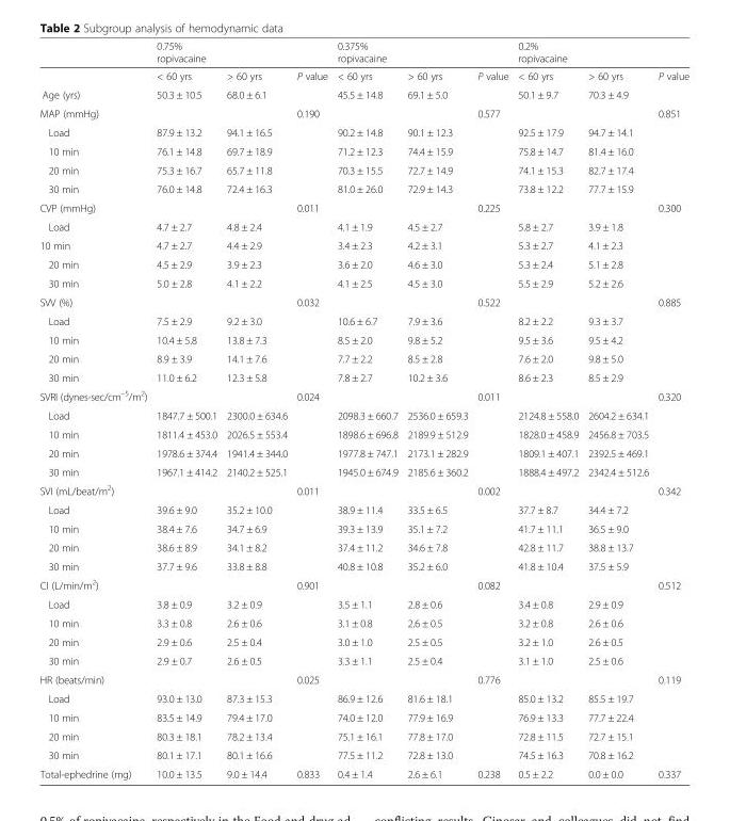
<table><thead><tr><td></td><td>0.75% ropivacaine</td><td></td><td></td><td>0.375% ropivacaine</td><td></td><td></td><td>0.2% ropivacaine</td><td></td><td></td></tr></thead><tbody><tr><td></td><td>&lt; 60 yrs</td><td>&gt; 60 yrs</td><td>P value</td><td>&lt; 60 yrs</td><td>&gt; 60 yrs</td><td>P value</td><td>&lt; 60 yrs</td><td>&gt; 60 yrs</td><td>P value</td></tr><tr><td>Age (yrs)</td><td>50.3 ± 10.5</td><td>68.0 ± 6.1</td><td></td><td>45.5 ± 14.8</td><td>69.1 ± 5.0</td><td></td><td>50.1 ± 9.7</td><td>70.3 ± 4.9</td><td></td></tr><tr><td>MAP (mmHg)</td><td></td><td></td><td>0.190</td><td></td><td></td><td>0.577</td><td></td><td></td><td>0.851</td></tr><tr><td>Load</td><td>87.9 ± 13.2</td><td>94.1 ± 16.5</td><td></td><td>90.2 ± 14.8</td><td>90.1 ± 12.3</td><td></td><td>92.5 ± 17.9</td><td>94.7 ± 14.1</td><td></td></tr><tr><td>10 min</td><td>76.1 ± 14.8</td><td>69.7 ± 18.9</td><td></td><td>71.2 ± 12.3</td><td>74.4 ± 15.9</td><td></td><td>75.8 ± 14.7</td><td>81.4 ± 16.0</td><td></td></tr><tr><td>20 min</td><td>75.3 ± 16.7</td><td>65.7 ± 11.8</td><td></td><td>70.3 ± 15.5</td><td>72.7 ± 14.9</td><td></td><td>74.1 ± 15.3</td><td>82.7 ± 17.4</td><td></td></tr><tr><td>30 min</td><td>76.0 ± 14.8</td><td>72.4 ± 16.3</td><td></td><td>81.0 ± 26.0</td><td>72.9 ± 14.3</td><td></td><td>73.8 ± 12.2</td><td>77.7 ± 15.9</td><td></td></tr><tr><td>CVP (mmHg)</td><td></td><td></td><td>0.011</td><td></td><td></td><td>0.225</td><td></td><td></td><td>0.300</td></tr><tr><td>Load</td><td>4.7 ± 2.7</td><td>4.8 ± 2.4</td><td></td><td>4.1 ± 1.9</td><td>4.5 ± 2.7</td><td></td><td>5.8 ± 2.7</td><td>3.9 ± 1.8</td><td></td></tr><tr><td>10 min</td><td>4.7 ± 2.7</td><td>4.4 ± 2.9</td><td></td><td>3.4 ± 2.3</td><td>4.2 ± 3.1</td><td></td><td>5.3 ± 2.7</td><td>4.1 ± 2.3</td><td></td></tr><tr><td>20 min</td><td>4.5 ± 2.9</td><td>3.9 ± 2.3</td><td></td><td>3.6 ± 2.0</td><td>4.6 ± 3.0</td><td></td><td>5.3 ± 2.4</td><td>5.1 ± 2.8</td><td></td></tr><tr><td>30 min</td><td>5.0 ± 2.8</td><td>4.1 ± 2.2</td><td></td><td>4.1 ± 2.5</td><td>4.5 ± 3.0</td><td></td><td>5.5 ± 2.9</td><td>5.2 ± 2.6</td><td></td></tr><tr><td>SVV (%)</td><td></td><td></td><td>0.032</td><td></td><td></td><td>0.522</td><td></td><td></td><td>0.885</td></tr><tr><td>Load</td><td>7.5 ± 2.9</td><td>9.2 ± 3.0</td><td></td><td>10.6 ± 6.7</td><td>7.9 ± 3.6</td><td></td><td>8.2 ± 2.2</td><td>9.3 ± 3.7</td><td></td></tr><tr><td>10 min</td><td>10.4 ± 5.8</td><td>13.8 ± 7.3</td><td></td><td>8.5 ± 2.0</td><td>9.8 ± 5.2</td><td></td><td>9.5 ± 3.6</td><td>9.5 ± 4.2</td><td></td></tr><tr><td>20 min</td><td>8.9 ± 3.9</td><td>14.1 ± 7.6</td><td></td><td>7.7 ± 2.2</td><td>8.5 ± 2.8</td><td></td><td>7.6 ± 2.0</td><td>9.8 ± 5.0</td><td></td></tr><tr><td>30 min</td><td>11.0 ± 6.2</td><td>12.3 ± 5.8</td><td></td><td>7.8 ± 2.7</td><td>10.2 ± 3.6</td><td></td><td>8.6 ± 2.3</td><td>8.5 ± 2.9</td><td></td></tr><tr><td>SVRI (dynes-sec/cm<sup>–5</sup>/m<sup>2</sup>)</td><td></td><td></td><td>0.024</td><td></td><td></td><td>0.011</td><td></td><td></td><td>0.320</td></tr><tr><td>Load</td><td>1847.7 ± 500.1</td><td>2300.0 ± 634.6</td><td></td><td>2098.3 ± 660.7</td><td>2536.0 ± 659.3</td><td></td><td>2124.8 ± 558.0</td><td>2604.2 ± 634.1</td><td></td></tr><tr><td>10 min</td><td>1811.4 ± 453.0</td><td>2026.5 ± 553.4</td><td></td><td>1898.6 ± 696.8</td><td>2189.9 ± 512.9</td><td></td><td>1828.0 ± 458.9</td><td>2456.8 ± 703.5</td><td></td></tr><tr><td>20 min</td><td>1978.6 ± 374.4</td><td>1941.4 ± 344.0</td><td></td><td>1977.8 ± 747.1</td><td>2173.1 ± 282.9</td><td></td><td>1809.1 ± 407.1</td><td>2392.5 ± 469.1</td><td></td></tr><tr><td>30 min</td><td>1967.1 ± 414.2</td><td>2140.2 ± 525.1</td><td></td><td>1945.0 ± 674.9</td><td>2185.6 ± 360.2</td><td></td><td>1888.4 ± 497.2</td><td>2342.4 ± 512.6</td><td></td></tr><tr><td>SVI (mL/beat/m<sup>2</sup>)</td><td></td><td></td><td>0.011</td><td></td><td></td><td>0.002</td><td></td><td></td><td>0.342</td></tr><tr><td>Load</td><td>39.6 ± 9.0</td><td>35.2 ± 10.0</td><td></td><td>38.9 ± 11.4</td><td>33.5 ± 6.5</td><td></td><td>37.7 ± 8.7</td><td>34.4 ± 7.2</td><td></td></tr><tr><td>10 min</td><td>38.4 ± 7.6</td><td>34.7 ± 6.9</td><td></td><td>39.3 ± 13.9</td><td>35.1 ± 7.2</td><td></td><td>41.7 ± 11.1</td><td>36.5 ± 9.0</td><td></td></tr><tr><td>20 min</td><td>38.6 ± 8.9</td><td>34.1 ± 8.2</td><td></td><td>37.4 ± 11.2</td><td>34.6 ± 7.8</td><td></td><td>42.8 ± 11.7</td><td>38.8 ± 13.7</td><td></td></tr><tr><td>30 min</td><td>37.7 ± 9.6</td><td>33.8 ± 8.8</td><td></td><td>40.8 ± 10.8</td><td>35.2 ± 6.0</td><td></td><td>41.8 ± 10.4</td><td>37.5 ± 5.9</td><td></td></tr><tr><td>CI (L/min/m<sup>2</sup>)</td><td></td><td></td><td>0.901</td><td></td><td></td><td>0.082</td><td></td><td></td><td>0.512</td></tr><tr><td>Load</td><td>3.8 ± 0.9</td><td>3.2 ± 0.9</td><td></td><td>3.5 ± 1.1</td><td>2.8 ± 0.6</td><td></td><td>3.4 ± 0.8</td><td>2.9 ± 0.9</td><td></td></tr><tr><td>10 min</td><td>3.3 ± 0.8</td><td>2.6 ± 0.6</td><td></td><td>3.1 ± 0.8</td><td>2.6 ± 0.5</td><td></td><td>3.2 ± 0.8</td><td>2.6 ± 0.6</td><td></td></tr><tr><td>20 min</td><td>2.9 ± 0.6</td><td>2.5 ± 0.4</td><td></td><td>3.0 ± 1.0</td><td>2.5 ± 0.5</td><td></td><td>3.2 ± 1.0</td><td>2.6 ± 0.5</td><td></td></tr><tr><td>30 min</td><td>2.9 ± 0.7</td><td>2.6 ± 0.5</td><td></td><td>3.3 ± 1.1</td><td>2.5 ± 0.4</td><td></td><td>3.1 ± 1.0</td><td>2.5 ± 0.6</td><td></td></tr><tr><td>HR (beats/min)</td><td></td><td></td><td>0.025</td><td></td><td></td><td>0.776</td><td></td><td></td><td>0.119</td></tr><tr><td>Load</td><td>93.0 ± 13.0</td><td>87.3 ± 15.3</td><td></td><td>86.9 ± 12.6</td><td>81.6 ± 18.1</td><td></td><td>85.0 ± 13.2</td><td>85.5 ± 19.7</td><td></td></tr><tr><td>10 min</td><td>83.5 ± 14.9</td><td>79.4 ± 17.0</td><td></td><td>74.0 ± 12.0</td><td>77.9 ± 16.9</td><td></td><td>76.9 ± 13.3</td><td>77.7 ± 22.4</td><td></td></tr><tr><td>20 min</td><td>80.3 ± 18.1</td><td>78.2 ± 13.4</td><td></td><td>75.1 ± 16.1</td><td>77.8 ± 17.0</td><td></td><td>72.8 ± 11.5</td><td>72.7 ± 15.1</td><td></td></tr><tr><td>30 min</td><td>80.1 ± 17.1</td><td>80.1 ± 16.6</td><td></td><td>77.5 ± 11.2</td><td>72.8 ± 13.0</td><td></td><td>74.5 ± 16.3</td><td>70.8 ± 16.2</td><td></td></tr><tr><td>Total-ephedrine (mg)</td><td>10.0 ± 13.5</td><td>9.0 ± 14.4</td><td>0.833</td><td>0.4 ± 1.4</td><td>2.6 ± 6.1</td><td>0.238</td><td>0.5 ± 2.2</td><td>0.0 ± 0.0</td><td>0.337</td></tr></tbody></table>